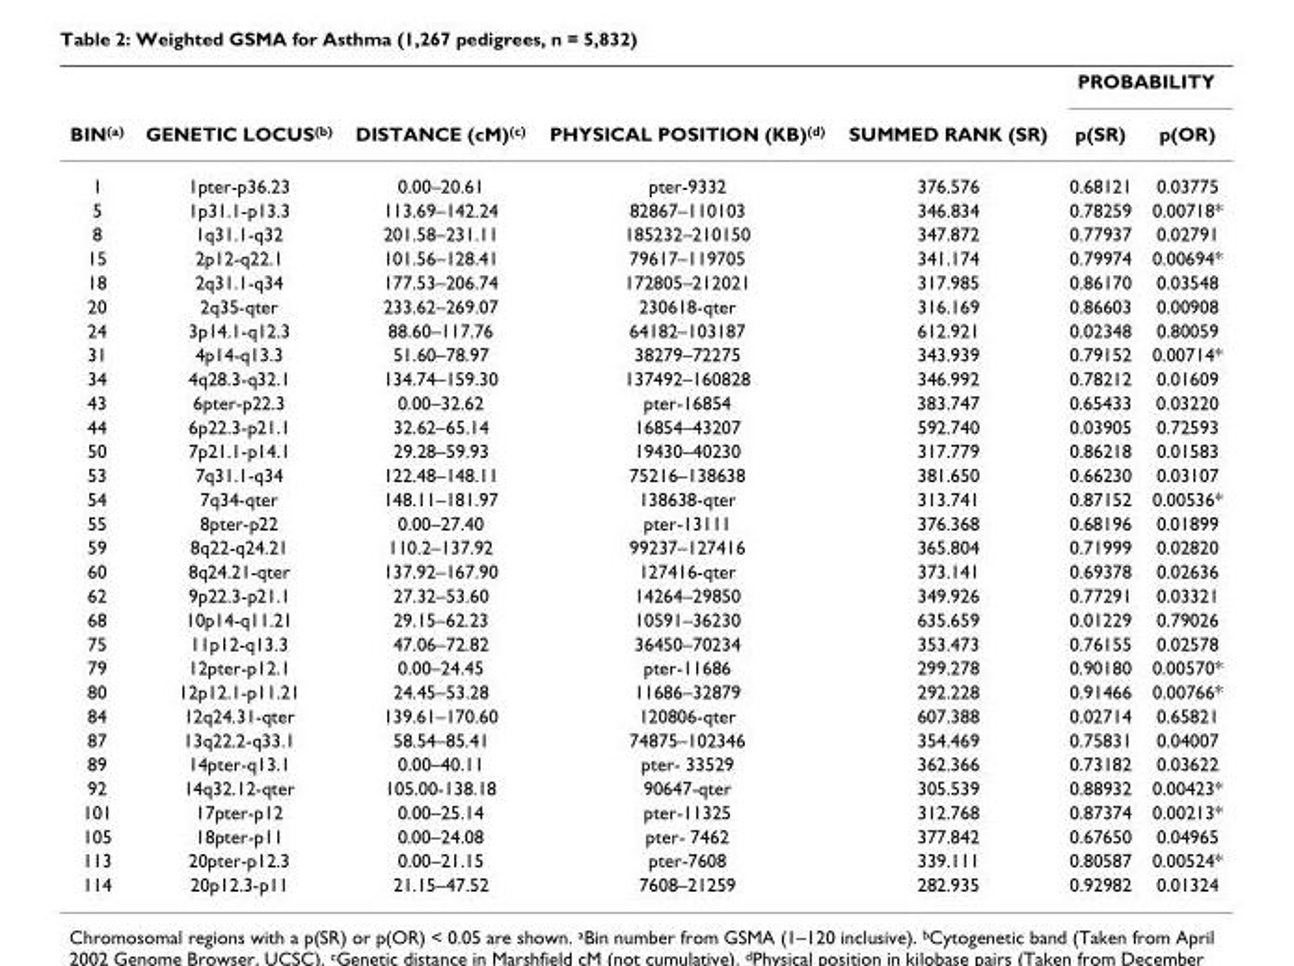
<table><thead><tr><td rowspan="2">BIN<sup>(a)</sup></td><td rowspan="2">GENETIC LOCUS<sup>(b)</sup></td><td rowspan="2">DISTANCE (cM)<sup>(c)</sup></td><td rowspan="2">PHYSICAL POSITION (KB)<sup>(d)</sup></td><td rowspan="2">SUMMED RANK (SR)</td><td colspan="2">PROBABILITY</td></tr><tr><td>p(SR)</td><td>p(OR)</td></tr></thead><tbody><tr><td>1</td><td>1pter-p36.23</td><td>0.00–20.61</td><td>pter-9332</td><td>376.576</td><td>0.68121</td><td>0.03775</td></tr><tr><td>5</td><td>1p31.1-p13.3</td><td>113.69–142.24</td><td>82867–110103</td><td>346.834</td><td>0.78259</td><td>0.00718*</td></tr><tr><td>8</td><td>1q31.1-q32</td><td>201.58–231.11</td><td>185232–210150</td><td>347.872</td><td>0.77937</td><td>0.02791</td></tr><tr><td>15</td><td>2p12-q22.1</td><td>101.56–128.41</td><td>79617–119705</td><td>341.174</td><td>0.79974</td><td>0.00694*</td></tr><tr><td>18</td><td>2q31.1-q34</td><td>177.53–206.74</td><td>172805–212021</td><td>317.985</td><td>0.86170</td><td>0.03548</td></tr><tr><td>20</td><td>2q35-qter</td><td>233.62–269.07</td><td>230618-qter</td><td>316.169</td><td>0.86603</td><td>0.00908</td></tr><tr><td>24</td><td>3p14.1-q12.3</td><td>88.60–117.76</td><td>64182–103187</td><td>612.921</td><td>0.02348</td><td>0.80059</td></tr><tr><td>31</td><td>4p14-q13.3</td><td>51.60–78.97</td><td>38279–72275</td><td>343.939</td><td>0.79152</td><td>0.00714*</td></tr><tr><td>34</td><td>4q28.3-q32.1</td><td>134.74–159.30</td><td>137492–160828</td><td>346.992</td><td>0.78212</td><td>0.01609</td></tr><tr><td>43</td><td>6pter-p22.3</td><td>0.00–32.62</td><td>pter-16854</td><td>383.747</td><td>0.65433</td><td>0.03220</td></tr><tr><td>44</td><td>6p22.3-p21.1</td><td>32.62–65.14</td><td>16854–43207</td><td>592.740</td><td>0.03905</td><td>0.72593</td></tr><tr><td>50</td><td>7p21.1-p14.1</td><td>29.28–59.93</td><td>19430–40230</td><td>317.779</td><td>0.86218</td><td>0.01583</td></tr><tr><td>53</td><td>7q31.1-q34</td><td>122.48–148.11</td><td>75216–138638</td><td>381.650</td><td>0.66230</td><td>0.03107</td></tr><tr><td>54</td><td>7q34-qter</td><td>148.11–181.97</td><td>138638-qter</td><td>313.741</td><td>0.87152</td><td>0.00536*</td></tr><tr><td>55</td><td>8pter-p22</td><td>0.00–27.40</td><td>pter-13111</td><td>376.368</td><td>0.68196</td><td>0.01899</td></tr><tr><td>59</td><td>8q22-q24.21</td><td>110.2–137.92</td><td>99237–127416</td><td>365.804</td><td>0.71999</td><td>0.02820</td></tr><tr><td>60</td><td>8q24.21-qter</td><td>137.92–167.90</td><td>127416-qter</td><td>373.141</td><td>0.69378</td><td>0.02636</td></tr><tr><td>62</td><td>9p22.3-p21.1</td><td>27.32–53.60</td><td>14264–29850</td><td>349.926</td><td>0.77291</td><td>0.03321</td></tr><tr><td>68</td><td>10p14-q11.21</td><td>29.15–62.23</td><td>10591–36230</td><td>635.659</td><td>0.01229</td><td>0.79026</td></tr><tr><td>75</td><td>11p12-q13.3</td><td>47.06–72.82</td><td>36450–70234</td><td>353.473</td><td>0.76155</td><td>0.02578</td></tr><tr><td>79</td><td>12pter-p12.1</td><td>0.00–24.45</td><td>pter-11686</td><td>299.278</td><td>0.90180</td><td>0.00570*</td></tr><tr><td>80</td><td>12p12.1-p11.21</td><td>24.45–53.28</td><td>11686–32879</td><td>292.228</td><td>0.91466</td><td>0.00766*</td></tr><tr><td>84</td><td>12q24.31-qter</td><td>139.61–170.60</td><td>120806-qter</td><td>607.388</td><td>0.02714</td><td>0.65821</td></tr><tr><td>87</td><td>13q22.2-q33.1</td><td>58.54–85.41</td><td>74875–102346</td><td>354.469</td><td>0.75831</td><td>0.04007</td></tr><tr><td>89</td><td>14pter-q13.1</td><td>0.00–40.11</td><td>pter- 33529</td><td>362.366</td><td>0.73182</td><td>0.03622</td></tr><tr><td>92</td><td>14q32.12-qter</td><td>105.00-138.18</td><td>90647-qter</td><td>305.539</td><td>0.88932</td><td>0.00423*</td></tr><tr><td>101</td><td>17pter-p12</td><td>0.00–25.14</td><td>pter-11325</td><td>312.768</td><td>0.87374</td><td>0.00213*</td></tr><tr><td>105</td><td>18pter-p11</td><td>0.00–24.08</td><td>pter- 7462</td><td>377.842</td><td>0.67650</td><td>0.04965</td></tr><tr><td>113</td><td>20pter-p12.3</td><td>0.00–21.15</td><td>pter-7608</td><td>339.111</td><td>0.80587</td><td>0.00524*</td></tr><tr><td>114</td><td>20p12.3-p11</td><td>21.15–47.52</td><td>7608–21259</td><td>282.935</td><td>0.92982</td><td>0.01324</td></tr></tbody></table>